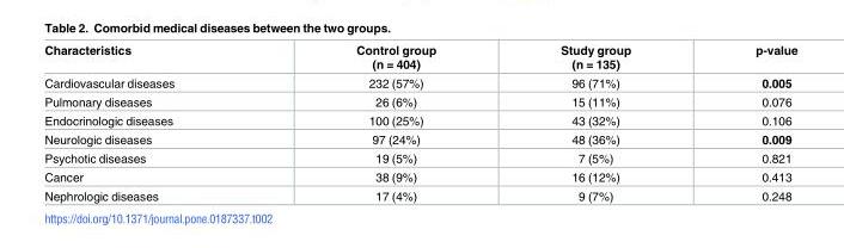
<table><thead><tr><td>Characteristics</td><td>Control group (n = 404)</td><td>Study group (n = 135)</td><td>p-value</td></tr></thead><tbody><tr><td>Cardiovascular diseases</td><td>232 (57%)</td><td>96 (71%)</td><td>0.005</td></tr><tr><td>Pulmonary diseases</td><td>26 (6%)</td><td>15 (11%)</td><td>0.076</td></tr><tr><td>Endocrinologic diseases</td><td>100 (25%)</td><td>43 (32%)</td><td>0.106</td></tr><tr><td>Neurologic diseases</td><td>97 (24%)</td><td>48 (36%)</td><td>0.009</td></tr><tr><td>Psychotic diseases</td><td>19 (5%)</td><td>7 (5%)</td><td>0.821</td></tr><tr><td>Cancer</td><td>38 (9%)</td><td>16 (12%)</td><td>0.413</td></tr><tr><td>Nephrologic diseases</td><td>17 (4%)</td><td>9 (7%)</td><td>0.248</td></tr></tbody></table>